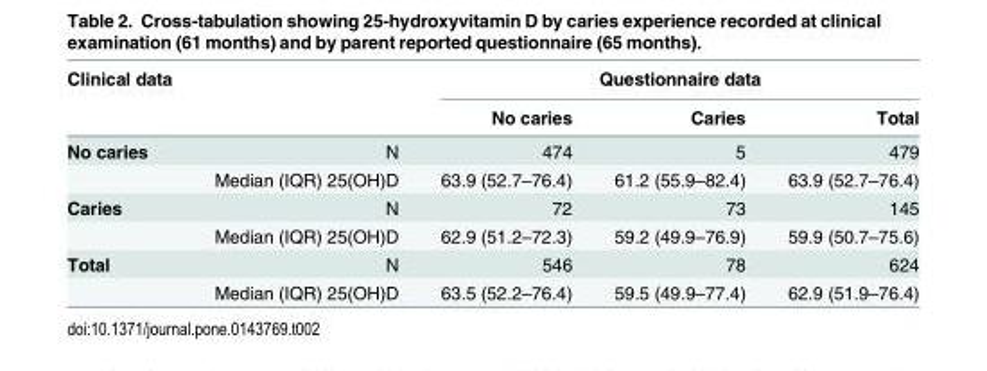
<table><thead><tr><td rowspan="2">Clinical data</td><td rowspan="2"></td><td colspan="3">Questionnaire data</td></tr><tr><td>No caries</td><td>Caries</td><td>Total</td></tr></thead><tbody><tr><td rowspan="2">No caries</td><td>N</td><td>474</td><td>5</td><td>479</td></tr><tr><td>Median (IQR) 25(OH)D</td><td>63.9 (52.7–76.4)</td><td>61.2 (55.9–82.4)</td><td>63.9 (52.7–76.4)</td></tr><tr><td rowspan="2">Caries</td><td>N</td><td>72</td><td>73</td><td>145</td></tr><tr><td>Median (IQR) 25(OH)D</td><td>62.9 (51.2–72.3)</td><td>59.2 (49.9–76.9)</td><td>59.9 (50.7–75.6)</td></tr><tr><td rowspan="2">Total</td><td>N</td><td>546</td><td>78</td><td>624</td></tr><tr><td>Median (IQR) 25(OH)D</td><td>63.5 (52.2–76.4)</td><td>59.5 (49.9–77.4)</td><td>62.9 (51.9–76.4)</td></tr></tbody></table>